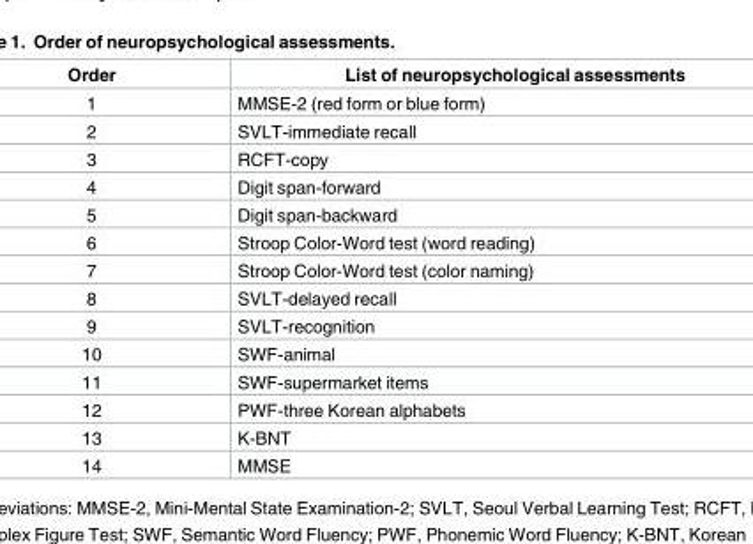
<table><thead><tr><td>Order</td><td>List of neuropsychological assessments</td></tr></thead><tbody><tr><td>1</td><td>MMSE-2 (red form or blue form)</td></tr><tr><td>2</td><td>SVLT-immediate recall</td></tr><tr><td>3</td><td>RCFT-copy</td></tr><tr><td>4</td><td>Digit span-forward</td></tr><tr><td>5</td><td>Digit span-backward</td></tr><tr><td>6</td><td>Stroop Color-Word test (word reading)</td></tr><tr><td>7</td><td>Stroop Color-Word test (color naming)</td></tr><tr><td>8</td><td>SVLT-delayed recall</td></tr><tr><td>9</td><td>SVLT-recognition</td></tr><tr><td>10</td><td>SWF-animal</td></tr><tr><td>11</td><td>SWF-supermarket items</td></tr><tr><td>12</td><td>PWF-three Korean alphabets</td></tr><tr><td>13</td><td>K-BNT</td></tr><tr><td>14</td><td>MMSE</td></tr></tbody></table>